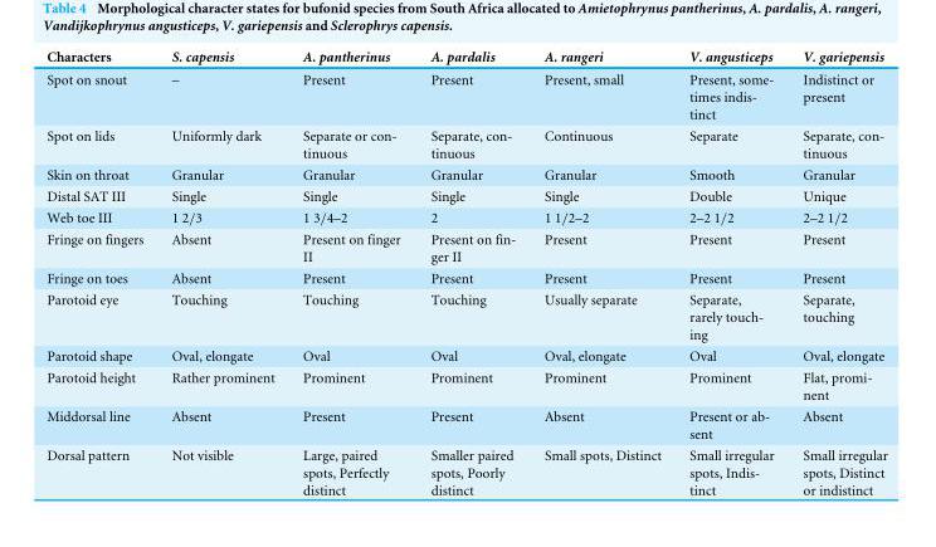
<table><thead><tr><td>Characters</td><td>S. capensis</td><td>A. pantherinus</td><td>A. pardalis</td><td>A. rangeri</td><td>V. angusticeps</td><td>V. gariepensis</td></tr></thead><tbody><tr><td>Spot on snout</td><td>–</td><td>Present</td><td>Present</td><td>Present, small</td><td>Present, some- times indis- tinct</td><td>Indistinct or present</td></tr><tr><td>Spot on lids</td><td>Uniformly dark</td><td>Separate or con- tinuous</td><td>Separate, con- tinuous</td><td>Continuous</td><td>Separate</td><td>Separate, con- tinuous</td></tr><tr><td>Skin on throat</td><td>Granular</td><td>Granular</td><td>Granular</td><td>Granular</td><td>Smooth</td><td>Granular</td></tr><tr><td>Distal SAT III</td><td>Single</td><td>Single</td><td>Single</td><td>Single</td><td>Double</td><td>Unique</td></tr><tr><td>Web toe III</td><td>1 2/3</td><td>1 3/4–2</td><td>2</td><td>1 1/2–2</td><td>2–2 1/2</td><td>2–2 1/2</td></tr><tr><td>Fringe on fingers</td><td>Absent</td><td>Present on finger II</td><td>Present on fin- ger II</td><td>Present</td><td>Present</td><td>Present</td></tr><tr><td>Fringe on toes</td><td>Absent</td><td>Present</td><td>Present</td><td>Present</td><td>Present</td><td>Present</td></tr><tr><td>Parotoid eye</td><td>Touching</td><td>Touching</td><td>Touching</td><td>Usually separate</td><td>Separate, rarely touch- ing</td><td>Separate, touching</td></tr><tr><td>Parotoid shape</td><td>Oval, elongate</td><td>Oval</td><td>Oval</td><td>Oval, elongate</td><td>Oval</td><td>Oval, elongate</td></tr><tr><td>Parotoid height</td><td>Rather prominent</td><td>Prominent</td><td>Prominent</td><td>Prominent</td><td>Prominent</td><td>Flat, promi- nent</td></tr><tr><td>Middorsal line</td><td>Absent</td><td>Present</td><td>Present</td><td>Absent</td><td>Present or ab- sent</td><td>Absent</td></tr><tr><td>Dorsal pattern</td><td>Not visible</td><td>Large, paired spots, Perfectly distinct</td><td>Smaller paired spots, Poorly distinct</td><td>Small spots, Distinct</td><td>Small irregular spots, Indis- tinct</td><td>Small irregular spots, Distinct or indistinct</td></tr></tbody></table>